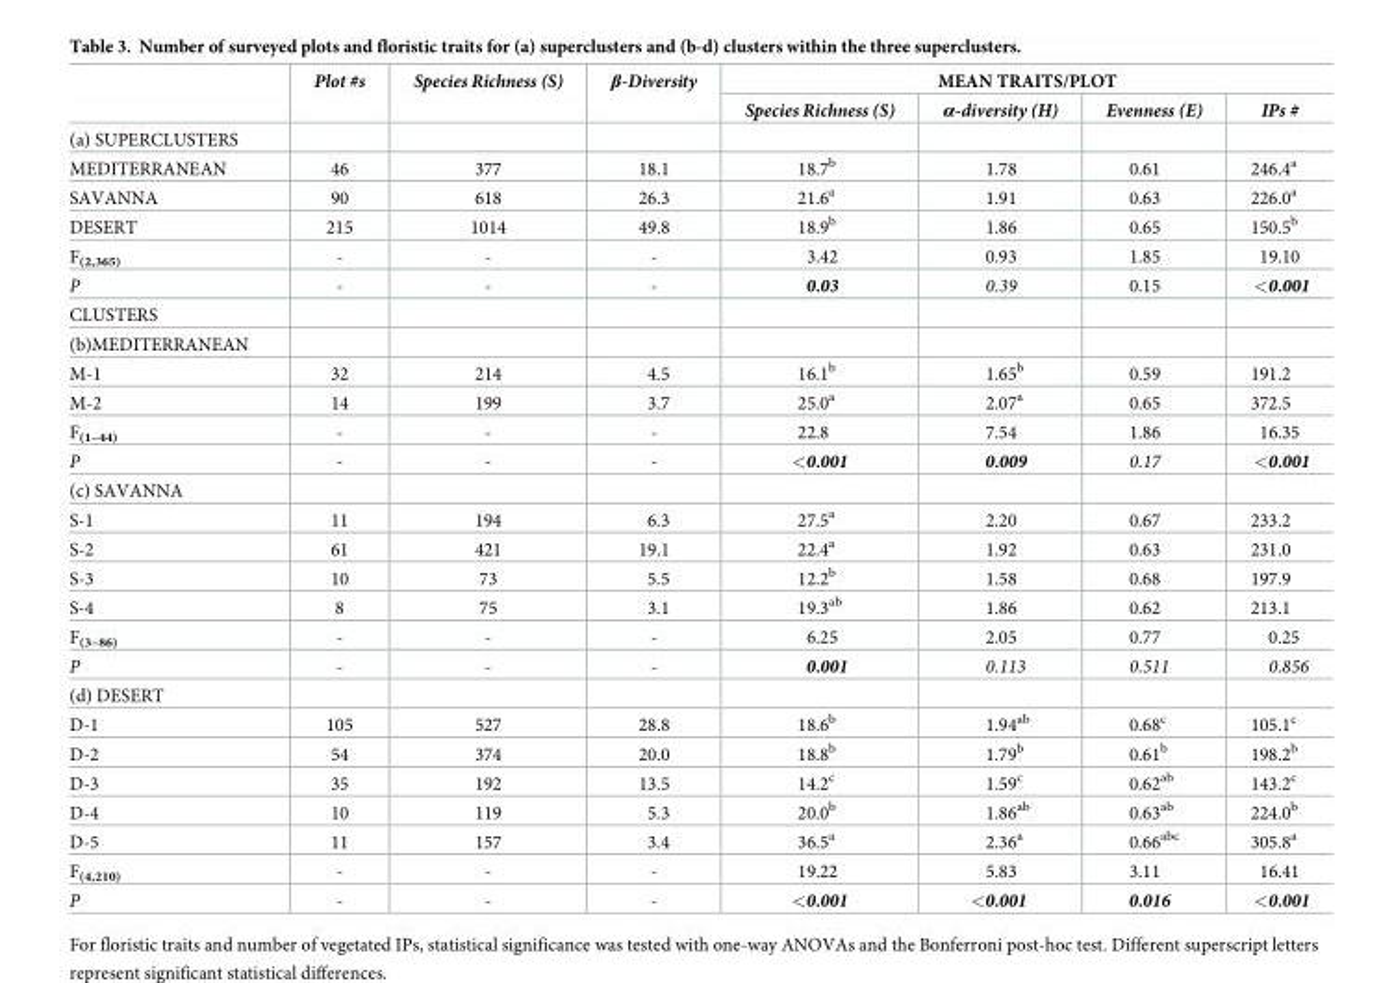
<table><thead><tr><td rowspan="2"></td><td rowspan="2">Plot #s</td><td rowspan="2">Species Richness (S)</td><td rowspan="2">β-Diversity</td><td colspan="4">MEAN TRAITS/PLOT</td></tr><tr><td>Species Richness (S)</td><td>α-diversity (H)</td><td>Evenness (E)</td><td>IPs #</td></tr></thead><tbody><tr><td colspan="8">(a) SUPERCLUSTERS</td></tr><tr><td>MEDITERRANEAN</td><td>46</td><td>377</td><td>18.1</td><td>18.7<sup>b</sup></td><td>1.78</td><td>0.61</td><td>246.4<sup>a</sup></td></tr><tr><td>SAVANNA</td><td>90</td><td>618</td><td>26.3</td><td>21.6<sup>a</sup></td><td>1.91</td><td>0.63</td><td>226.0<sup>a</sup></td></tr><tr><td>DESERT</td><td>215</td><td>1014</td><td>49.8</td><td>18.9<sup>b</sup></td><td>1.86</td><td>0.65</td><td>150.5<sup>b</sup></td></tr><tr><td>F<sub>(2,365)</sub></td><td>-</td><td>-</td><td>-</td><td>3.42</td><td>0.93</td><td>1.85</td><td>19.10</td></tr><tr><td>P</td><td>-</td><td>-</td><td>-</td><td>0.03</td><td>0.39</td><td>0.15</td><td>&lt;0.001</td></tr><tr><td colspan="8">CLUSTERS</td></tr><tr><td colspan="8">(b)MEDITERRANEAN</td></tr><tr><td>M-1</td><td>32</td><td>214</td><td>4.5</td><td>16.1<sup>b</sup></td><td>1.65<sup>b</sup></td><td>0.59</td><td>191.2</td></tr><tr><td>M-2</td><td>14</td><td>199</td><td>3.7</td><td>25.0<sup>a</sup></td><td>2.07<sup>a</sup></td><td>0.65</td><td>372.5</td></tr><tr><td>F<sub>(1–44)</sub></td><td>-</td><td>-</td><td>-</td><td>22.8</td><td>7.54</td><td>1.86</td><td>16.35</td></tr><tr><td>P</td><td>-</td><td>-</td><td>-</td><td>&lt;0.001</td><td>0.009</td><td>0.17</td><td>&lt;0.001</td></tr><tr><td colspan="8">(c) SAVANNA</td></tr><tr><td>S-1</td><td>11</td><td>194</td><td>6.3</td><td>27.5<sup>a</sup></td><td>2.20</td><td>0.67</td><td>233.2</td></tr><tr><td>S-2</td><td>61</td><td>421</td><td>19.1</td><td>22.4<sup>a</sup></td><td>1.92</td><td>0.63</td><td>231.0</td></tr><tr><td>S-3</td><td>10</td><td>73</td><td>5.5</td><td>12.2<sup>b</sup></td><td>1.58</td><td>0.68</td><td>197.9</td></tr><tr><td>S-4</td><td>8</td><td>75</td><td>3.1</td><td>19.3<sup>ab</sup></td><td>1.86</td><td>0.62</td><td>213.1</td></tr><tr><td>F<sub>(3–86)</sub></td><td>-</td><td>-</td><td>-</td><td>6.25</td><td>2.05</td><td>0.77</td><td>0.25</td></tr><tr><td>P</td><td>-</td><td>-</td><td>-</td><td>0.001</td><td>0.113</td><td>0.511</td><td>0.856</td></tr><tr><td colspan="8">(d) DESERT</td></tr><tr><td>D-1</td><td>105</td><td>527</td><td>28.8</td><td>18.6<sup>b</sup></td><td>1.94<sup>ab</sup></td><td>0.68<sup>c</sup></td><td>105.1<sup>c</sup></td></tr><tr><td>D-2</td><td>54</td><td>374</td><td>20.0</td><td>18.8<sup>b</sup></td><td>1.79<sup>b</sup></td><td>0.61<sup>b</sup></td><td>198.2<sup>b</sup></td></tr><tr><td>D-3</td><td>35</td><td>192</td><td>13.5</td><td>14.2<sup>c</sup></td><td>1.59<sup>c</sup></td><td>0.62<sup>ab</sup></td><td>143.2<sup>c</sup></td></tr><tr><td>D-4</td><td>10</td><td>119</td><td>5.3</td><td>20.0<sup>b</sup></td><td>1.86<sup>ab</sup></td><td>0.63<sup>ab</sup></td><td>224.0<sup>b</sup></td></tr><tr><td>D-5</td><td>11</td><td>157</td><td>3.4</td><td>36.5<sup>a</sup></td><td>2.36<sup>a</sup></td><td>0.66<sup>abc</sup></td><td>305.8<sup>a</sup></td></tr><tr><td>F<sub>(4,210)</sub></td><td>-</td><td>-</td><td>-</td><td>19.22</td><td>5.83</td><td>3.11</td><td>16.41</td></tr><tr><td>P</td><td>-</td><td>-</td><td>-</td><td>&lt;0.001</td><td>&lt;0.001</td><td>0.016</td><td>&lt;0.001</td></tr></tbody></table>